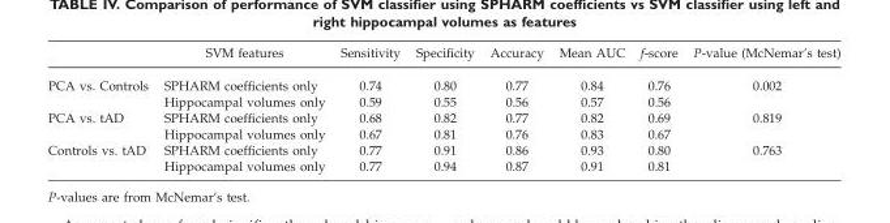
<table><thead><tr><td></td><td>SVM features</td><td>Sensitivity</td><td>Specificity</td><td>Accuracy</td><td>Mean AUC</td><td>f-score</td><td>P-value (McNemar’s test)</td></tr></thead><tbody><tr><td rowspan="2">PCA vs. Controls</td><td>SPHARM coefficients only</td><td>0.74</td><td>0.80</td><td>0.77</td><td>0.84</td><td>0.76</td><td rowspan="2">0.002</td></tr><tr><td>Hippocampal volumes only</td><td>0.59</td><td>0.55</td><td>0.56</td><td>0.57</td><td>0.56</td></tr><tr><td rowspan="2">PCA vs. tAD</td><td>SPHARM coefficients only</td><td>0.68</td><td>0.82</td><td>0.77</td><td>0.82</td><td>0.69</td><td rowspan="2">0.819</td></tr><tr><td>Hippocampal volumes only</td><td>0.67</td><td>0.81</td><td>0.76</td><td>0.83</td><td>0.67</td></tr><tr><td rowspan="2">Controls vs. tAD</td><td>SPHARM coefficients only</td><td>0.77</td><td>0.91</td><td>0.86</td><td>0.93</td><td>0.80</td><td rowspan="2">0.763</td></tr><tr><td>Hippocampal volumes only</td><td>0.77</td><td>0.94</td><td>0.87</td><td>0.91</td><td>0.81</td></tr></tbody></table>